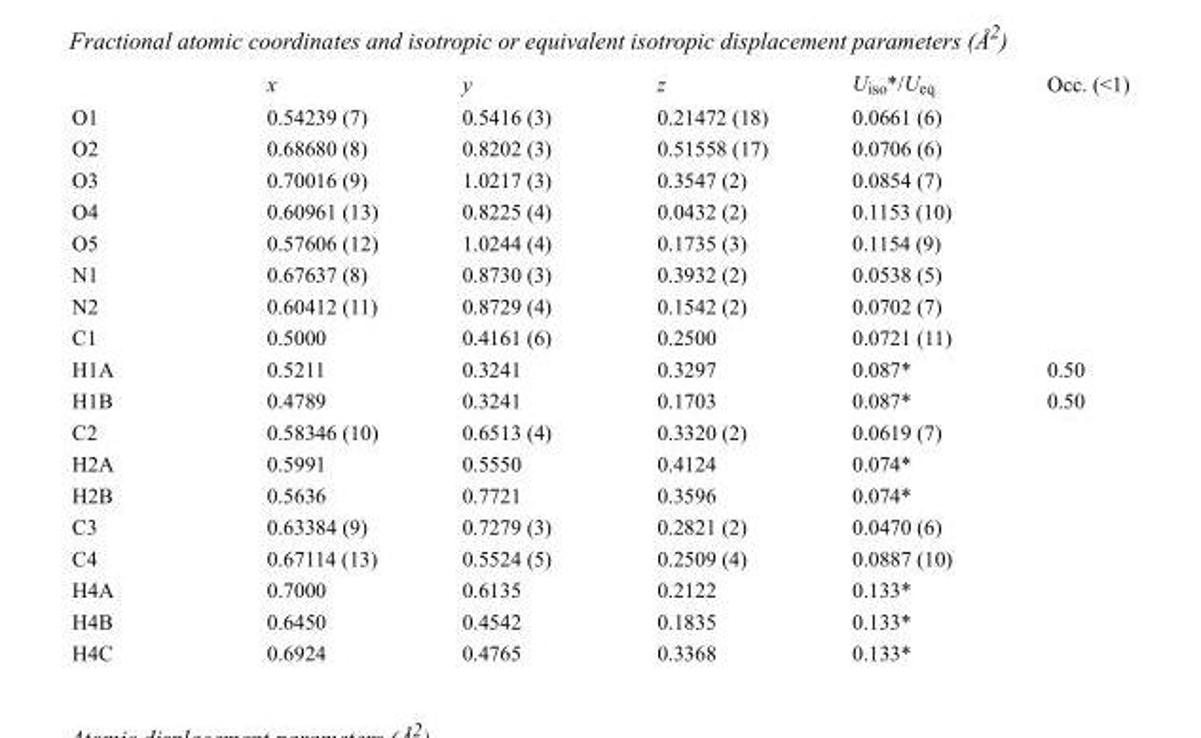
<table><thead><tr><td></td><td>x</td><td>y</td><td>z</td><td>U<sub>iso</sub>*/U<sub>eq</sub></td><td>Occ. (&lt;1)</td></tr></thead><tbody><tr><td>O1</td><td>0.54239 (7)</td><td>0.5416 (3)</td><td>0.21472 (18)</td><td>0.0661 (6)</td><td></td></tr><tr><td>O2</td><td>0.68680 (8)</td><td>0.8202 (3)</td><td>0.51558 (17)</td><td>0.0706 (6)</td><td></td></tr><tr><td>O3</td><td>0.70016 (9)</td><td>1.0217 (3)</td><td>0.3547 (2)</td><td>0.0854 (7)</td><td></td></tr><tr><td>O4</td><td>0.60961 (13)</td><td>0.8225 (4)</td><td>0.0432 (2)</td><td>0.1153 (10)</td><td></td></tr><tr><td>O5</td><td>0.57606 (12)</td><td>1.0244 (4)</td><td>0.1735 (3)</td><td>0.1154 (9)</td><td></td></tr><tr><td>N1</td><td>0.67637 (8)</td><td>0.8730 (3)</td><td>0.3932 (2)</td><td>0.0538 (5)</td><td></td></tr><tr><td>N2</td><td>0.60412 (11)</td><td>0.8729 (4)</td><td>0.1542 (2)</td><td>0.0702 (7)</td><td></td></tr><tr><td>C1</td><td>0.5000</td><td>0.4161 (6)</td><td>0.2500</td><td>0.0721 (11)</td><td></td></tr><tr><td>H1A</td><td>0.5211</td><td>0.3241</td><td>0.3297</td><td>0.087*</td><td>0.50</td></tr><tr><td>H1B</td><td>0.4789</td><td>0.3241</td><td>0.1703</td><td>0.087*</td><td>0.50</td></tr><tr><td>C2</td><td>0.58346 (10)</td><td>0.6513 (4)</td><td>0.3320 (2)</td><td>0.0619 (7)</td><td></td></tr><tr><td>H2A</td><td>0.5991</td><td>0.5550</td><td>0.4124</td><td>0.074*</td><td></td></tr><tr><td>H2B</td><td>0.5636</td><td>0.7721</td><td>0.3596</td><td>0.074*</td><td></td></tr><tr><td>C3</td><td>0.63384 (9)</td><td>0.7279 (3)</td><td>0.2821 (2)</td><td>0.0470 (6)</td><td></td></tr><tr><td>C4</td><td>0.67114 (13)</td><td>0.5524 (5)</td><td>0.2509 (4)</td><td>0.0887 (10)</td><td></td></tr><tr><td>H4A</td><td>0.7000</td><td>0.6135</td><td>0.2122</td><td>0.133*</td><td></td></tr><tr><td>H4B</td><td>0.6450</td><td>0.4542</td><td>0.1835</td><td>0.133*</td><td></td></tr><tr><td>H4C</td><td>0.6924</td><td>0.4765</td><td>0.3368</td><td>0.133*</td><td></td></tr></tbody></table>